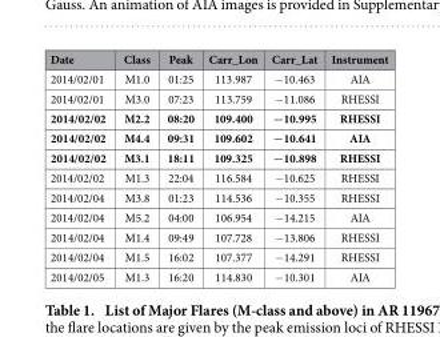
<table><thead><tr><td>Date</td><td>Class</td><td>Peak</td><td>Carr_Lon</td><td>Carr_Lat</td><td>Instrument</td></tr></thead><tbody><tr><td>2014/02/01</td><td>M1.0</td><td>01:25</td><td>113.987</td><td>− 10.463</td><td>AIA</td></tr><tr><td>2014/02/01</td><td>M3.0</td><td>07:23</td><td>113.759</td><td>− 11.086</td><td>RHESSI</td></tr><tr><td>2014/02/02</td><td>M2.2</td><td>08:20</td><td>109.400</td><td>−10.995</td><td>RHESSI</td></tr><tr><td>2014/02/02</td><td>M4.4</td><td>09:31</td><td>109.602</td><td>−10.641</td><td>AIA</td></tr><tr><td>2014/02/02</td><td>M3.1</td><td>18:11</td><td>109.325</td><td>−10.898</td><td>RHESSI</td></tr><tr><td>2014/02/02</td><td>M1.3</td><td>22:04</td><td>116.584</td><td>− 10.625</td><td>RHESSI</td></tr><tr><td>2014/02/04</td><td>M3.8</td><td>01:23</td><td>114.536</td><td>− 10.355</td><td>RHESSI</td></tr><tr><td>2014/02/04</td><td>M5.2</td><td>04:00</td><td>106.954</td><td>− 14.215</td><td>AIA</td></tr><tr><td>2014/02/04</td><td>M1.4</td><td>09:49</td><td>107.728</td><td>− 13.806</td><td>RHESSI</td></tr><tr><td>2014/02/04</td><td>M1.5</td><td>16:02</td><td>107.377</td><td>− 14.291</td><td>RHESSI</td></tr><tr><td>2014/02/05</td><td>M1.3</td><td>16:20</td><td>114.830</td><td>− 10.301</td><td>AIA</td></tr></tbody></table>